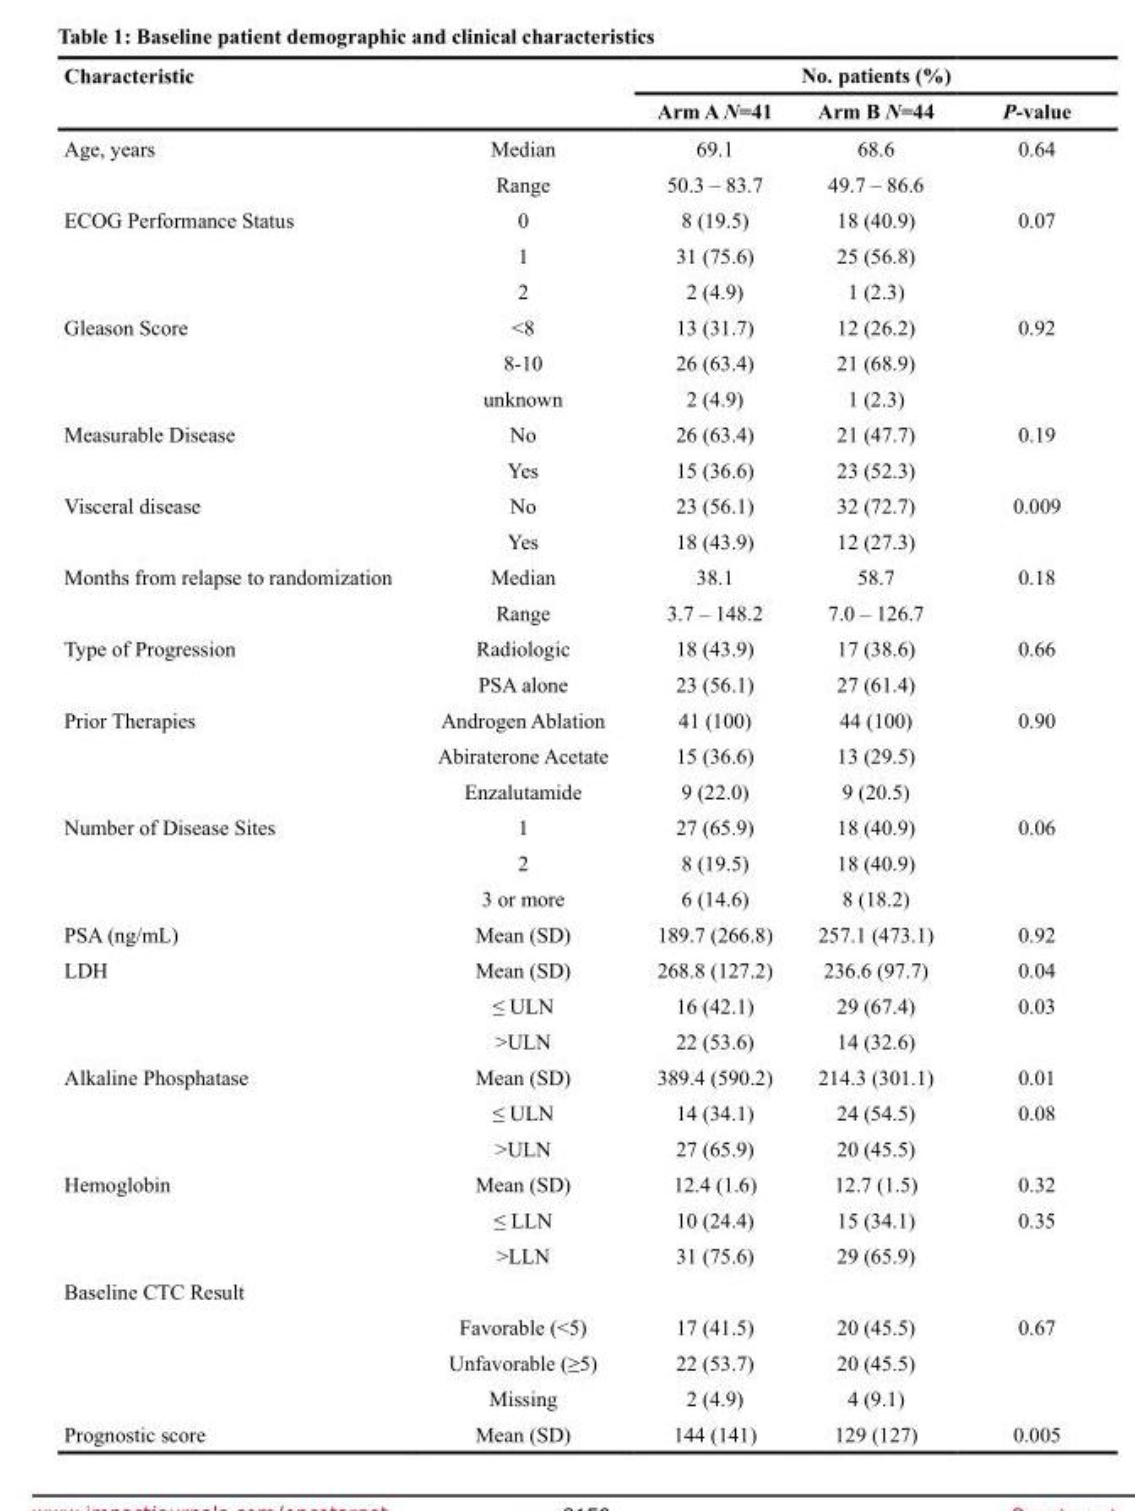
<table><thead><tr><td rowspan="2">Characteristic</td><td rowspan="2"></td><td colspan="3">No. patients (%)</td></tr><tr><td>Arm A N=41</td><td>Arm B N=44</td><td>P-value</td></tr></thead><tbody><tr><td rowspan="2">Age, years</td><td>Median</td><td>69.1</td><td>68.6</td><td>0.64</td></tr><tr><td>Range</td><td>50.3 – 83.7</td><td>49.7 – 86.6</td><td></td></tr><tr><td rowspan="3">ECOG Performance Status</td><td>0</td><td>8 (19.5)</td><td>18 (40.9)</td><td>0.07</td></tr><tr><td>1</td><td>31 (75.6)</td><td>25 (56.8)</td><td></td></tr><tr><td>2</td><td>2 (4.9)</td><td>1 (2.3)</td><td></td></tr><tr><td rowspan="3">Gleason Score</td><td>&lt;8</td><td>13 (31.7)</td><td>12 (26.2)</td><td>0.92</td></tr><tr><td>8-10</td><td>26 (63.4)</td><td>21 (68.9)</td><td></td></tr><tr><td>unknown</td><td>2 (4.9)</td><td>1 (2.3)</td><td></td></tr><tr><td rowspan="2">Measurable Disease</td><td>No</td><td>26 (63.4)</td><td>21 (47.7)</td><td>0.19</td></tr><tr><td>Yes</td><td>15 (36.6)</td><td>23 (52.3)</td><td></td></tr><tr><td rowspan="2">Visceral disease</td><td>No</td><td>23 (56.1)</td><td>32 (72.7)</td><td>0.009</td></tr><tr><td>Yes</td><td>18 (43.9)</td><td>12 (27.3)</td><td></td></tr><tr><td rowspan="2">Months from relapse to randomization</td><td>Median</td><td>38.1</td><td>58.7</td><td>0.18</td></tr><tr><td>Range</td><td>3.7 – 148.2</td><td>7.0 – 126.7</td><td></td></tr><tr><td rowspan="2">Type of Progression</td><td>Radiologic</td><td>18 (43.9)</td><td>17 (38.6)</td><td>0.66</td></tr><tr><td>PSA alone</td><td>23 (56.1)</td><td>27 (61.4)</td><td></td></tr><tr><td rowspan="3">Prior Therapies</td><td>Androgen Ablation</td><td>41 (100)</td><td>44 (100)</td><td>0.90</td></tr><tr><td>Abiraterone Acetate</td><td>15 (36.6)</td><td>13 (29.5)</td><td></td></tr><tr><td>Enzalutamide</td><td>9 (22.0)</td><td>9 (20.5)</td><td></td></tr><tr><td rowspan="3">Number of Disease Sites</td><td>1</td><td>27 (65.9)</td><td>18 (40.9)</td><td>0.06</td></tr><tr><td>2</td><td>8 (19.5)</td><td>18 (40.9)</td><td></td></tr><tr><td>3 or more</td><td>6 (14.6)</td><td>8 (18.2)</td><td></td></tr><tr><td>PSA (ng/mL)</td><td>Mean (SD)</td><td>189.7 (266.8)</td><td>257.1 (473.1)</td><td>0.92</td></tr><tr><td rowspan="3">LDH</td><td>Mean (SD)</td><td>268.8 (127.2)</td><td>236.6 (97.7)</td><td>0.04</td></tr><tr><td>≤ ULN</td><td>16 (42.1)</td><td>29 (67.4)</td><td>0.03</td></tr><tr><td>&gt;ULN</td><td>22 (53.6)</td><td>14 (32.6)</td><td></td></tr><tr><td rowspan="3">Alkaline Phosphatase</td><td>Mean (SD)</td><td>389.4 (590.2)</td><td>214.3 (301.1)</td><td>0.01</td></tr><tr><td>≤ ULN</td><td>14 (34.1)</td><td>24 (54.5)</td><td>0.08</td></tr><tr><td>&gt;ULN</td><td>27 (65.9)</td><td>20 (45.5)</td><td></td></tr><tr><td rowspan="3">Hemoglobin</td><td>Mean (SD)</td><td>12.4 (1.6)</td><td>12.7 (1.5)</td><td>0.32</td></tr><tr><td>≤ LLN</td><td>10 (24.4)</td><td>15 (34.1)</td><td>0.35</td></tr><tr><td>&gt;LLN</td><td>31 (75.6)</td><td>29 (65.9)</td><td></td></tr><tr><td colspan="5">Baseline CTC Result</td></tr><tr><td></td><td>Favorable (&lt;5)</td><td>17 (41.5)</td><td>20 (45.5)</td><td>0.67</td></tr><tr><td></td><td>Unfavorable (≥5)</td><td>22 (53.7)</td><td>20 (45.5)</td><td></td></tr><tr><td></td><td>Missing</td><td>2 (4.9)</td><td>4 (9.1)</td><td></td></tr><tr><td>Prognostic score</td><td>Mean (SD)</td><td>144 (141)</td><td>129 (127)</td><td>0.005</td></tr></tbody></table>